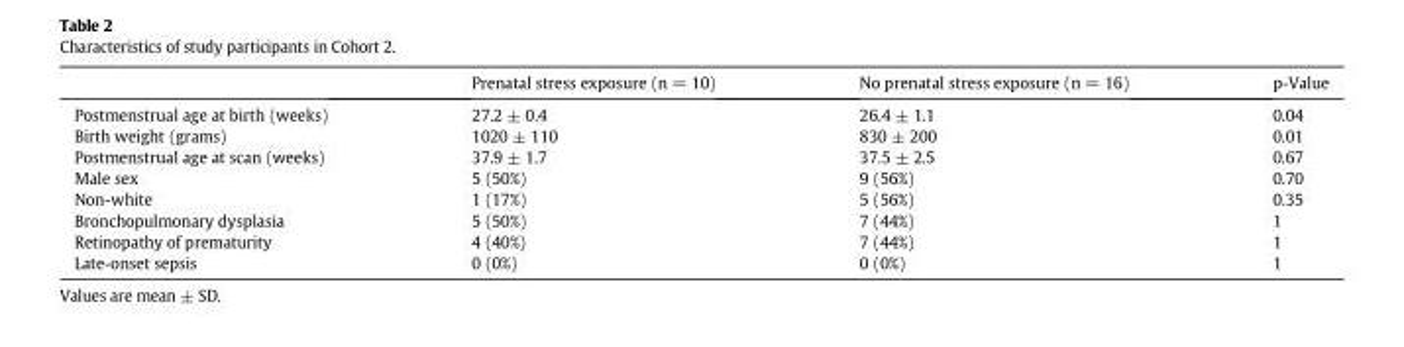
<table><thead><tr><td></td><td>Prenatal stress exposure (n = 10)</td><td>No prenatal stress exposure (n = 16)</td><td>p-Value</td></tr></thead><tbody><tr><td>Postmenstrual age at birth (weeks)</td><td>27.2 ± 0.4</td><td>26.4 ± 1.1</td><td>0.04</td></tr><tr><td>Birth weight (grams)</td><td>1020 ± 110</td><td>830 ± 200</td><td>0.01</td></tr><tr><td>Postmenstrual age at scan (weeks)</td><td>37.9 ± 1.7</td><td>37.5 ± 2.5</td><td>0.67</td></tr><tr><td>Male sex</td><td>5 (50%)</td><td>9 (56%)</td><td>0.70</td></tr><tr><td>Non-white</td><td>1 (17%)</td><td>5 (56%)</td><td>0.35</td></tr><tr><td>Bronchopulmonary dysplasia</td><td>5 (50%)</td><td>7 (44%)</td><td>1</td></tr><tr><td>Retinopathy of prematurity</td><td>4 (40%)</td><td>7 (44%)</td><td>1</td></tr><tr><td>Late-onset sepsis</td><td>0 (0%)</td><td>0 (0%)</td><td>1</td></tr></tbody></table>